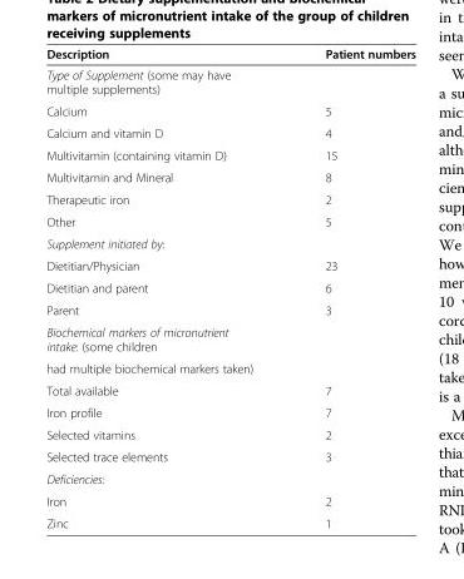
<table><thead><tr><td>Description</td><td>Patient numbers</td></tr></thead><tbody><tr><td colspan="2">Type of Supplement (some may have multiple supplements)</td></tr><tr><td>Calcium</td><td>5</td></tr><tr><td>Calcium and vitamin D</td><td>4</td></tr><tr><td>Multivitamin (containing vitamin D)</td><td>15</td></tr><tr><td>Multivitamin and Mineral</td><td>8</td></tr><tr><td>Therapeutic iron</td><td>2</td></tr><tr><td>Other</td><td>5</td></tr><tr><td colspan="2">Supplement initiated by:</td></tr><tr><td>Dietitian/Physician</td><td>23</td></tr><tr><td>Dietitian and parent</td><td>6</td></tr><tr><td>Parent</td><td>3</td></tr><tr><td colspan="2">Biochemical markers of micronutrient intake: (some children</td></tr><tr><td colspan="2">had multiple biochemical markers taken)</td></tr><tr><td>Total available</td><td>7</td></tr><tr><td>Iron profile</td><td>7</td></tr><tr><td>Selected vitamins</td><td>2</td></tr><tr><td>Selected trace elements</td><td>3</td></tr><tr><td colspan="2">Deficiencies:</td></tr><tr><td>Iron</td><td>2</td></tr><tr><td>Zinc</td><td>1</td></tr></tbody></table>